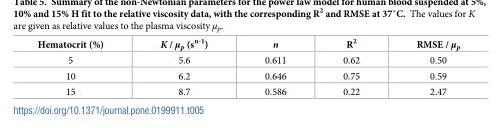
<table><thead><tr><td>Hematocrit (%)</td><td>K / μ<sub>p</sub> (s<sup>n-1</sup>)</td><td>n</td><td>R<sup>2</sup></td><td>RMSE / μ<sub>p</sub></td></tr></thead><tbody><tr><td>5</td><td>5.6</td><td>0.611</td><td>0.62</td><td>0.50</td></tr><tr><td>10</td><td>6.2</td><td>0.646</td><td>0.75</td><td>0.59</td></tr><tr><td>15</td><td>8.7</td><td>0.586</td><td>0.22</td><td>2.47</td></tr></tbody></table>